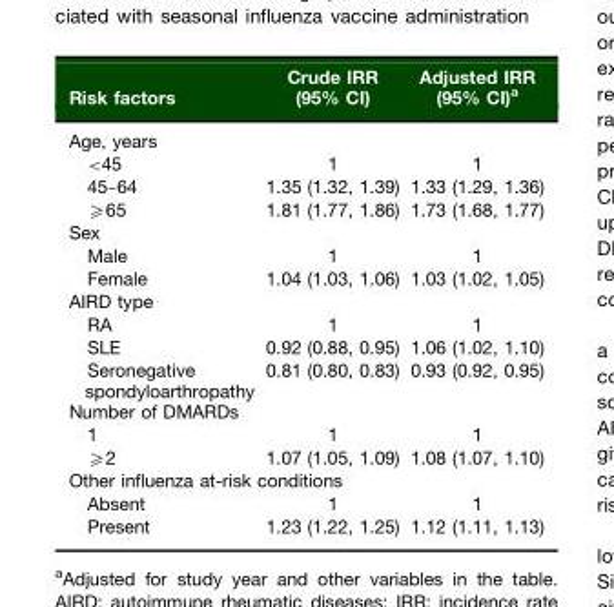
<table><thead><tr><td>Risk factors</td><td>Crude IRR (95% CI)</td><td>Adjusted IRR (95% CI)<sup>a</sup></td></tr></thead><tbody><tr><td colspan="3">Age, years</td></tr><tr><td>&lt;45</td><td>1</td><td>1</td></tr><tr><td>45–64</td><td>1.35 (1.32, 1.39)</td><td>1.33 (1.29, 1.36)</td></tr><tr><td>≥65</td><td>1.81 (1.77, 1.86)</td><td>1.73 (1.68, 1.77)</td></tr><tr><td colspan="3">Sex</td></tr><tr><td>Male</td><td>1</td><td>1</td></tr><tr><td>Female</td><td>1.04 (1.03, 1.06)</td><td>1.03 (1.02, 1.05)</td></tr><tr><td colspan="3">AIRD type</td></tr><tr><td>RA</td><td>1</td><td>1</td></tr><tr><td>SLE</td><td>0.92 (0.88, 0.95)</td><td>1.06 (1.02, 1.10)</td></tr><tr><td>Seronegative spondyloarthropathy</td><td>0.81 (0.80, 0.83)</td><td>0.93 (0.92, 0.95)</td></tr><tr><td colspan="3">Number of DMARDs</td></tr><tr><td>1</td><td>1</td><td>1</td></tr><tr><td>≥2</td><td>1.07 (1.05, 1.09)</td><td>1.08 (1.07, 1.10)</td></tr><tr><td colspan="3">Other influenza at-risk conditions</td></tr><tr><td>Absent</td><td>1</td><td>1</td></tr><tr><td>Present</td><td>1.23 (1.22, 1.25)</td><td>1.12 (1.11, 1.13)</td></tr></tbody></table>